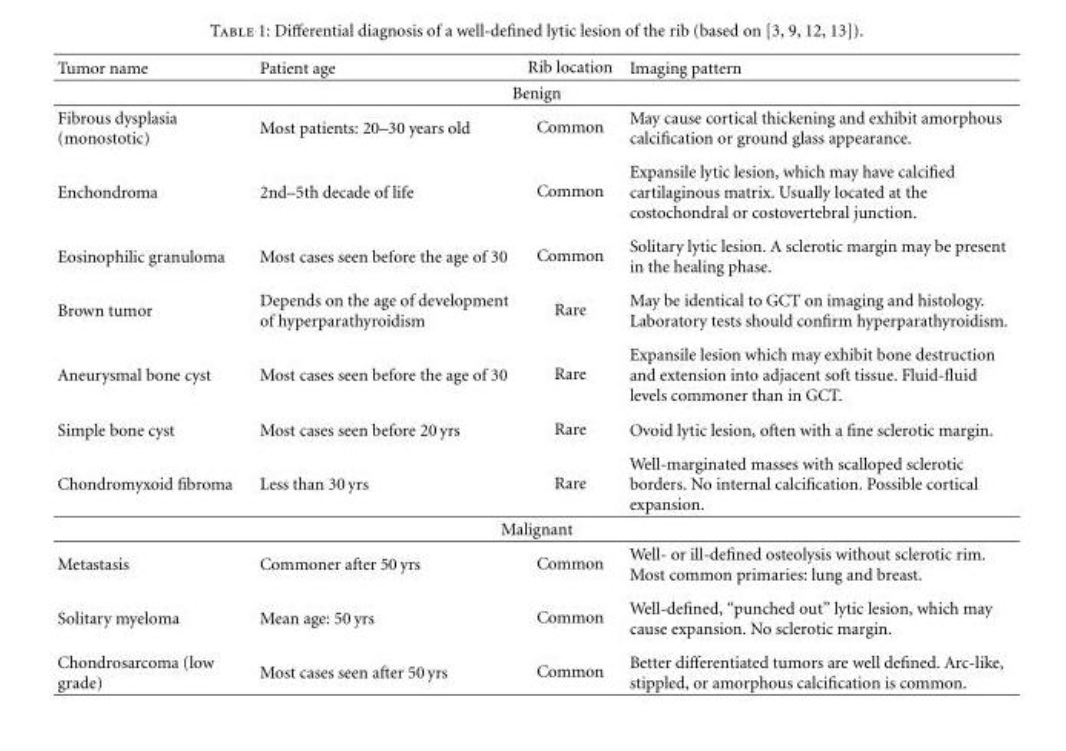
<table><thead><tr><td>Tumor name</td><td>Patient age</td><td>Rib location</td><td>Imaging pattern</td></tr></thead><tbody><tr><td colspan="4">Benign</td></tr><tr><td>Fibrous dysplasia (monostotic)</td><td>Most patients: 20–30 years old</td><td>Common</td><td>May cause cortical thickening and exhibit amorphous calcification or ground glass appearance.</td></tr><tr><td>Enchondroma</td><td>2nd–5th decade of life</td><td>Common</td><td>Expansile lytic lesion, which may have calcified cartilaginous matrix. Usually located at the costochondral or costovertebral junction.</td></tr><tr><td>Eosinophilic granuloma</td><td>Most cases seen before the age of 30</td><td>Common</td><td>Solitary lytic lesion. A sclerotic margin may be present in the healing phase.</td></tr><tr><td>Brown tumor</td><td>Depends on the age of development of hyperparathyroidism</td><td>Rare</td><td>May be identical to GCT on imaging and histology. Laboratory tests should confirm hyperparathyroidism.</td></tr><tr><td>Aneurysmal bone cyst</td><td>Most cases seen before the age of 30</td><td>Rare</td><td>Expansile lesion which may exhibit bone destruction and extension into adjacent soft tissue. Fluid-fluid levels commoner than in GCT.</td></tr><tr><td>Simple bone cyst</td><td>Most cases seen before 20 yrs</td><td>Rare</td><td>Ovoid lytic lesion, often with a fine sclerotic margin.</td></tr><tr><td>Chondromyxoid fibroma</td><td>Less than 30 yrs</td><td>Rare</td><td>Well-marginated masses with scalloped sclerotic borders. No internal calcification. Possible cortical expansion.</td></tr><tr><td colspan="4">Malignant</td></tr><tr><td>Metastasis</td><td>Commoner after 50 yrs</td><td>Common</td><td>Well- or ill-defined osteolysis without sclerotic rim. Most common primaries: lung and breast.</td></tr><tr><td>Solitary myeloma</td><td>Mean age: 50 yrs</td><td>Common</td><td>Well-defined, “punched out” lytic lesion, which may cause expansion. No sclerotic margin.</td></tr><tr><td>Chondrosarcoma (low grade)</td><td>Most cases seen after 50 yrs</td><td>Common</td><td>Better differentiated tumors are well defined. Arc-like, stippled, or amorphous calcification is common.</td></tr></tbody></table>